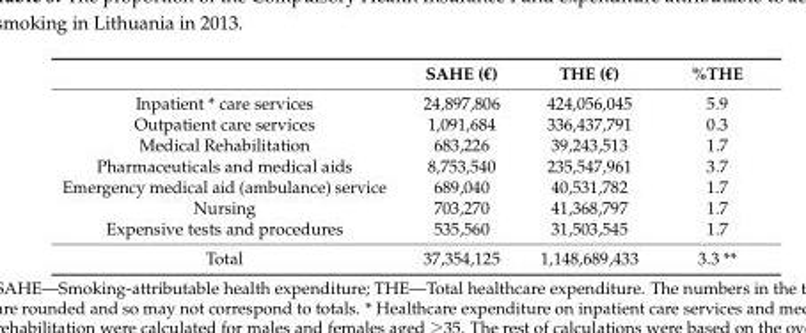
<table><thead><tr><td></td><td>SAHE (€)</td><td>THE (€)</td><td>%THE</td></tr></thead><tbody><tr><td>Inpatient * care services</td><td>24,897,806</td><td>424,056,045</td><td>5.9</td></tr><tr><td>Outpatient care services</td><td>1,091,684</td><td>336,437,791</td><td>0.3</td></tr><tr><td>Medical Rehabilitation</td><td>683,226</td><td>39,243,513</td><td>1.7</td></tr><tr><td>Pharmaceuticals and medical aids</td><td>8,753,540</td><td>235,547,961</td><td>3.7</td></tr><tr><td>Emergency medical aid (ambulance) service</td><td>689,040</td><td>40,531,782</td><td>1.7</td></tr><tr><td>Nursing</td><td>703,270</td><td>41,368,797</td><td>1.7</td></tr><tr><td>Expensive tests and procedures</td><td>535,560</td><td>31,503,545</td><td>1.7</td></tr><tr><td>Total</td><td>37,354,125</td><td>1,148,689,433</td><td>3.3 **</td></tr></tbody></table>